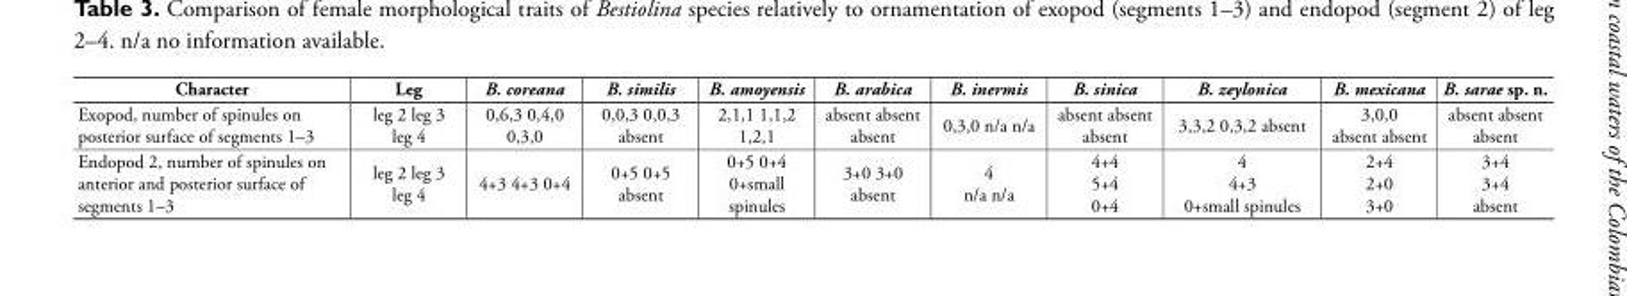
<table><thead><tr><td>Character</td><td>Leg</td><td>B. coreana</td><td>B. similis</td><td>B. amoyensis</td><td>B. arabica</td><td>B. inermis</td><td>B. sinica</td><td>B. zeylonica</td><td>B. mexicana</td><td>B. sarae sp. n.</td></tr></thead><tbody><tr><td>Exopod, number of spinules on posterior surface of segments 1–3</td><td>leg 2 leg 3 leg 4</td><td>0,6,3 0,4,0 0,3,0</td><td>0,0,3 0,0,3 absent</td><td>2,1,1 1,1,2 1,2,1</td><td>absent absent absent</td><td>0,3,0 n/a n/a</td><td>absent absent absent</td><td>3,3,2 0,3,2 absent</td><td>3,0,0 absent absent</td><td>absent absent absent</td></tr><tr><td>Endopod 2, number of spinules on anterior and posterior surface of segments 1–3</td><td>leg 2 leg 3 leg 4</td><td>4+3 4+3 0+4</td><td>0+5 0+5 absent</td><td>0+5 0+4 0+small spinules</td><td>3+0 3+0 absent</td><td>4 n/a n/a</td><td>4+4 5+4 0+4</td><td>4 4+3 0+small spinules</td><td>2+4 2+0 3+0</td><td>3+4 3+4 absent</td></tr></tbody></table>